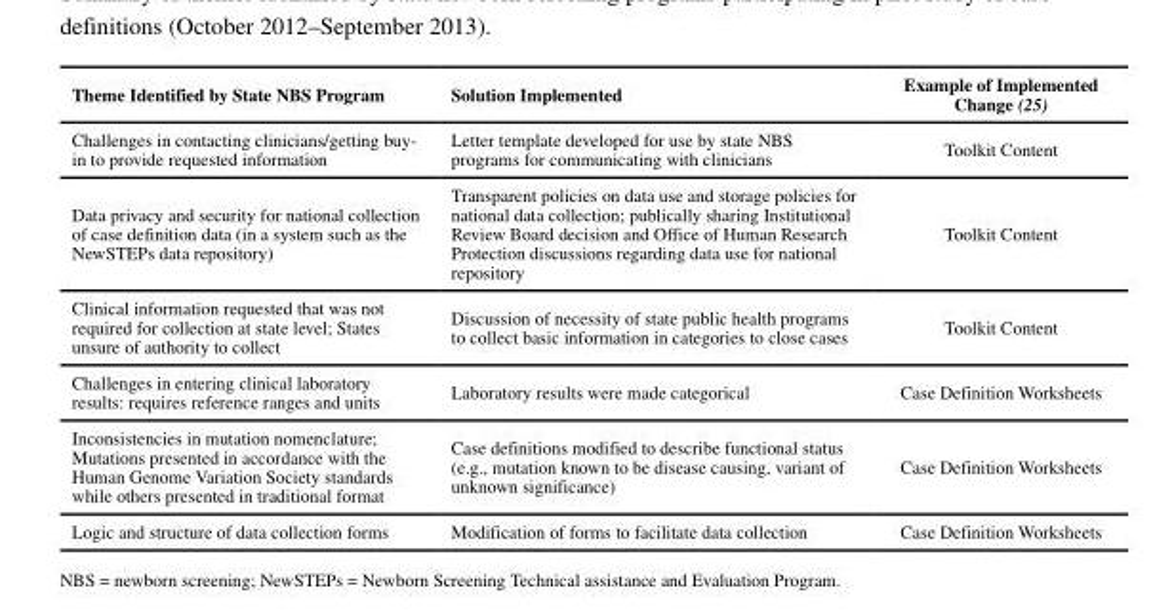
<table><thead><tr><td>Theme Identified by State NBS Program</td><td>Solution Implemented</td><td>Example of Implemented Change (25)</td></tr></thead><tbody><tr><td>Challenges in contacting clinicians/getting buy- in to provide requested information</td><td>Letter template developed for use by state NBS programs for communicating with clinicians</td><td>Toolkit Content</td></tr><tr><td>Data privacy and security for national collection of case definition data (in a system such as the NewSTEPs data repository)</td><td>Transparent policies on data use and storage policies for national data collection; publically sharing Institutional Review Board decision and Office of Human Research Protection discussions regarding data use for national repository</td><td>Toolkit Content</td></tr><tr><td>Clinical information requested that was not required for collection at state level; States unsure of authority to collect</td><td>Discussion of necessity of state public health programs to collect basic information in categories to close cases</td><td>Toolkit Content</td></tr><tr><td>Challenges in entering clinical laboratory results: requires reference ranges and units</td><td>Laboratory results were made categorical</td><td>Case Definition Worksheets</td></tr><tr><td>Inconsistencies in mutation nomenclature; Mutations presented in accordance with the Human Genome Variation Society standards while others presented in traditional format</td><td>Case definitions modified to describe functional status (e.g., mutation known to be disease causing, variant of unknown significance)</td><td>Case Definition Worksheets</td></tr><tr><td>Logic and structure of data collection forms</td><td>Modification of forms to facilitate data collection</td><td>Case Definition Worksheets</td></tr></tbody></table>